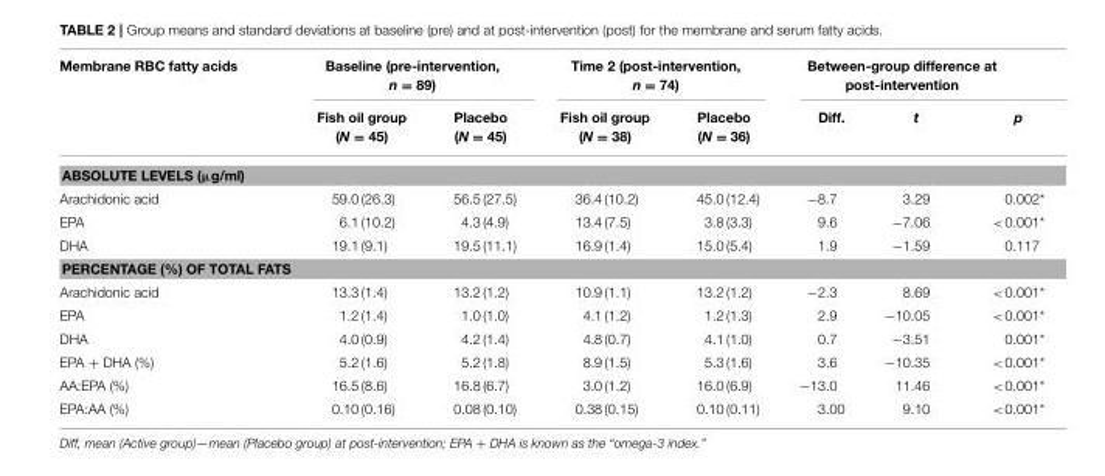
<table><thead><tr><td rowspan="2">Membrane RBC fatty acids</td><td colspan="2">Baseline (pre-intervention, n = 89)</td><td colspan="2">Time 2 (post-intervention, n = 74)</td><td colspan="3">Between-group difference at post-intervention</td></tr><tr><td>Fish oil group (N = 45)</td><td>Placebo (N = 45)</td><td>Fish oil group (N = 38)</td><td>Placebo (N = 36)</td><td>Diff.</td><td>t</td><td>p</td></tr></thead><tbody><tr><td colspan="8">ABSOLUTE LEVELS (µg/ml)</td></tr><tr><td>Arachidonic acid</td><td>59.0 (26.3)</td><td>56.5 (27.5)</td><td>36.4 (10.2)</td><td>45.0 (12.4)</td><td>−8.7</td><td>3.29</td><td>0.002*</td></tr><tr><td>EPA</td><td>6.1 (10.2)</td><td>4.3 (4.9)</td><td>13.4 (7.5)</td><td>3.8 (3.3)</td><td>9.6</td><td>−7.06</td><td>&lt;0.001*</td></tr><tr><td>DHA</td><td>19.1 (9.1)</td><td>19.5 (11.1)</td><td>16.9 (1.4)</td><td>15.0 (5.4)</td><td>1.9</td><td>−1.59</td><td>0.117</td></tr><tr><td colspan="8">PERCENTAGE (%) OF TOTAL FATS</td></tr><tr><td>Arachidonic acid</td><td>13.3 (1.4)</td><td>13.2 (1.2)</td><td>10.9 (1.1)</td><td>13.2 (1.2)</td><td>−2.3</td><td>8.69</td><td>&lt;0.001*</td></tr><tr><td>EPA</td><td>1.2 (1.4)</td><td>1.0 (1.0)</td><td>4.1 (1.2)</td><td>1.2 (1.3)</td><td>2.9</td><td>−10.05</td><td>&lt;0.001*</td></tr><tr><td>DHA</td><td>4.0 (0.9)</td><td>4.2 (1.4)</td><td>4.8 (0.7)</td><td>4.1 (1.0)</td><td>0.7</td><td>−3.51</td><td>0.001*</td></tr><tr><td>EPA + DHA (%)</td><td>5.2 (1.6)</td><td>5.2 (1.8)</td><td>8.9 (1.5)</td><td>5.3 (1.6)</td><td>3.6</td><td>−10.35</td><td>&lt;0.001*</td></tr><tr><td>AA:EPA (%)</td><td>16.5 (8.6)</td><td>16.8 (6.7)</td><td>3.0 (1.2)</td><td>16.0 (6.9)</td><td>−13.0</td><td>11.46</td><td>&lt;0.001*</td></tr><tr><td>EPA:AA (%)</td><td>0.10 (0.16)</td><td>0.08 (0.10)</td><td>0.38 (0.15)</td><td>0.10 (0.11)</td><td>3.00</td><td>9.10</td><td>&lt;0.001*</td></tr></tbody></table>